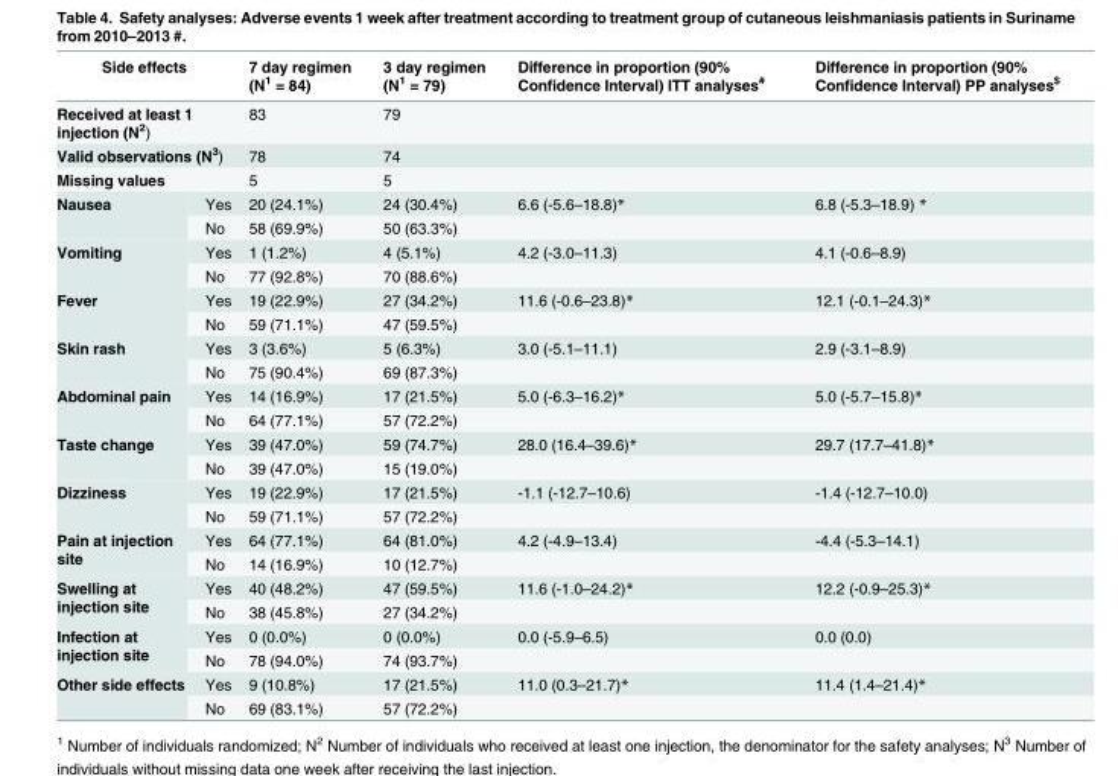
<table><thead><tr><td colspan="2">Side effects</td><td>7 day regimen (N<sup>1</sup> = 84)</td><td>3 day regimen (N<sup>1</sup> = 79)</td><td>Difference in proportion (90% Confidence Interval) ITT analyses<sup>#</sup></td><td>Difference in proportion (90% Confidence Interval) PP analyses<sup>$</sup></td></tr></thead><tbody><tr><td colspan="2">Received at least 1 injection (N<sup>2</sup>)</td><td>83</td><td>79</td><td></td><td></td></tr><tr><td colspan="2">Valid observations (N<sup>3</sup>)</td><td>78</td><td>74</td><td></td><td></td></tr><tr><td colspan="2">Missing values</td><td>5</td><td>5</td><td></td><td></td></tr><tr><td rowspan="2">Nausea</td><td>Yes</td><td>20 (24.1%)</td><td>24 (30.4%)</td><td>6.6 (-5.6–18.8)*</td><td>6.8 (-5.3–18.9) *</td></tr><tr><td>No</td><td>58 (69.9%)</td><td>50 (63.3%)</td><td></td><td></td></tr><tr><td rowspan="2">Vomiting</td><td>Yes</td><td>1 (1.2%)</td><td>4 (5.1%)</td><td>4.2 (-3.0–11.3)</td><td>4.1 (-0.6–8.9)</td></tr><tr><td>No</td><td>77 (92.8%)</td><td>70 (88.6%)</td><td></td><td></td></tr><tr><td rowspan="2">Fever</td><td>Yes</td><td>19 (22.9%)</td><td>27 (34.2%)</td><td>11.6 (-0.6–23.8)*</td><td>12.1 (-0.1–24.3)*</td></tr><tr><td>No</td><td>59 (71.1%)</td><td>47 (59.5%)</td><td></td><td></td></tr><tr><td rowspan="2">Skin rash</td><td>Yes</td><td>3 (3.6%)</td><td>5 (6.3%)</td><td>3.0 (-5.1–11.1)</td><td>2.9 (-3.1–8.9)</td></tr><tr><td>No</td><td>75 (90.4%)</td><td>69 (87.3%)</td><td></td><td></td></tr><tr><td rowspan="2">Abdominal pain</td><td>Yes</td><td>14 (16.9%)</td><td>17 (21.5%)</td><td>5.0 (-6.3–16.2)*</td><td>5.0 (-5.7–15.8)*</td></tr><tr><td>No</td><td>64 (77.1%)</td><td>57 (72.2%)</td><td></td><td></td></tr><tr><td rowspan="2">Taste change</td><td>Yes</td><td>39 (47.0%)</td><td>59 (74.7%)</td><td>28.0 (16.4–39.6)*</td><td>29.7 (17.7–41.8)*</td></tr><tr><td>No</td><td>39 (47.0%)</td><td>15 (19.0%)</td><td></td><td></td></tr><tr><td rowspan="2">Dizziness</td><td>Yes</td><td>19 (22.9%)</td><td>17 (21.5%)</td><td>-1.1 (-12.7–10.6)</td><td>-1.4 (-12.7–10.0)</td></tr><tr><td>No</td><td>59 (71.1%)</td><td>57 (72.2%)</td><td></td><td></td></tr><tr><td rowspan="2">Pain at injection site</td><td>Yes</td><td>64 (77.1%)</td><td>64 (81.0%)</td><td>4.2 (-4.9–13.4)</td><td>-4.4 (-5.3–14.1)</td></tr><tr><td>No</td><td>14 (16.9%)</td><td>10 (12.7%)</td><td></td><td></td></tr><tr><td rowspan="2">Swelling at injection site</td><td>Yes</td><td>40 (48.2%)</td><td>47 (59.5%)</td><td>11.6 (-1.0–24.2)*</td><td>12.2 (-0.9–25.3)*</td></tr><tr><td>No</td><td>38 (45.8%)</td><td>27 (34.2%)</td><td></td><td></td></tr><tr><td rowspan="2">Infection at injection site</td><td>Yes</td><td>0 (0.0%)</td><td>0 (0.0%)</td><td>0.0 (-5.9–6.5)</td><td>0.0 (0.0)</td></tr><tr><td>No</td><td>78 (94.0%)</td><td>74 (93.7%)</td><td></td><td></td></tr><tr><td rowspan="2">Other side effects</td><td>Yes</td><td>9 (10.8%)</td><td>17 (21.5%)</td><td>11.0 (0.3–21.7)*</td><td>11.4 (1.4–21.4)*</td></tr><tr><td>No</td><td>69 (83.1%)</td><td>57 (72.2%)</td><td></td><td></td></tr></tbody></table>